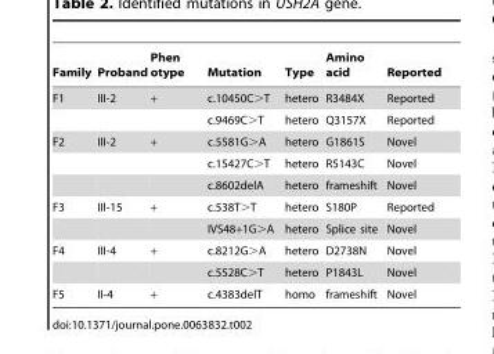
<table><thead><tr><td>Family</td><td>Proband</td><td>Phen otype</td><td>Mutation</td><td>Type</td><td>Amino acid</td><td>Reported</td></tr></thead><tbody><tr><td rowspan="2">F1</td><td>III-2</td><td>+</td><td>c.10450C&gt;T</td><td>hetero</td><td>R3484X</td><td>Reported</td></tr><tr><td></td><td></td><td>c.9469C&gt;T</td><td>hetero</td><td>Q3157X</td><td>Reported</td></tr><tr><td rowspan="3">F2</td><td>III-2</td><td>+</td><td>c.5581G&gt;A</td><td>hetero</td><td>G1861S</td><td>Novel</td></tr><tr><td></td><td></td><td>c.15427C&gt;T</td><td>hetero</td><td>R5143C</td><td>Novel</td></tr><tr><td></td><td></td><td>c.8602delA</td><td>hetero</td><td>frameshift</td><td>Novel</td></tr><tr><td rowspan="2">F3</td><td>III-15</td><td>+</td><td>c.538T&gt;T</td><td>hetero</td><td>S180P</td><td>Reported</td></tr><tr><td></td><td></td><td>IVS48+1G&gt;A</td><td>hetero</td><td>Splice site</td><td>Novel</td></tr><tr><td rowspan="2">F4</td><td>III-4</td><td>+</td><td>c.8212G&gt;A</td><td>hetero</td><td>D2738N</td><td>Novel</td></tr><tr><td></td><td></td><td>c.5528C&gt;T</td><td>hetero</td><td>P1843L</td><td>Novel</td></tr><tr><td>F5</td><td>II-4</td><td>+</td><td>c.4383delT</td><td>homo</td><td>frameshift</td><td>Novel</td></tr></tbody></table>